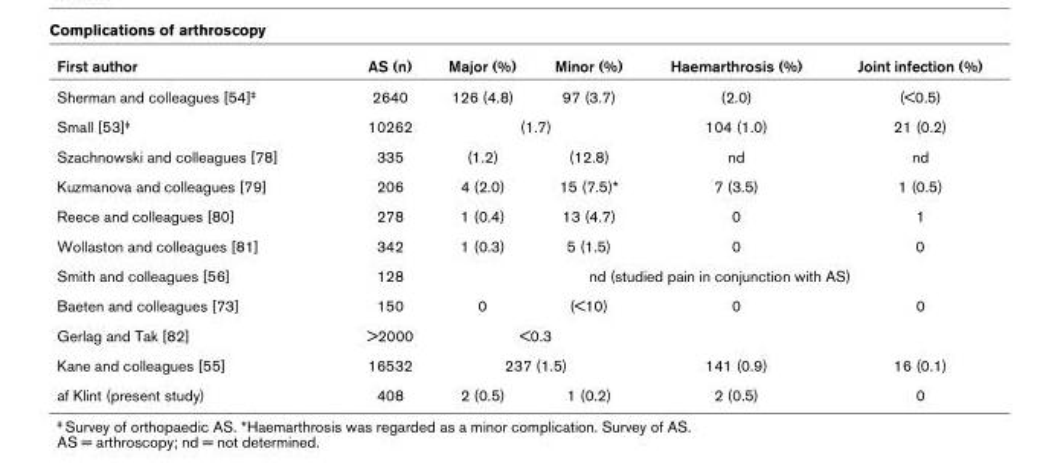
<table><thead><tr><td>First author</td><td>AS (n)</td><td>Major (%)</td><td>Minor (%)</td><td>Haemarthrosis (%)</td><td>Joint infection (%)</td></tr></thead><tbody><tr><td>Sherman and colleagues [54]<sup>‡</sup></td><td>2640</td><td>126 (4.8)</td><td>97 (3.7)</td><td>(2.0)</td><td>(&lt;0.5)</td></tr><tr><td>Small [53]<sup>‡</sup></td><td>10262</td><td colspan="2">(1.7)</td><td>104 (1.0)</td><td>21 (0.2)</td></tr><tr><td>Szachnowski and colleagues [78]</td><td>335</td><td>(1.2)</td><td>(12.8)</td><td>nd</td><td>nd</td></tr><tr><td>Kuzmanova and colleagues [79]</td><td>206</td><td>4 (2.0)</td><td>15 (7.5)*</td><td>7 (3.5)</td><td>1 (0.5)</td></tr><tr><td>Reece and colleagues [80]</td><td>278</td><td>1 (0.4)</td><td>13 (4.7)</td><td>0</td><td>1</td></tr><tr><td>Wollaston and colleagues [81]</td><td>342</td><td>1 (0.3)</td><td>5 (1.5)</td><td>0</td><td>0</td></tr><tr><td>Smith and colleagues [56]</td><td>128</td><td colspan="4">nd (studied pain in conjunction with AS)</td></tr><tr><td>Baeten and colleagues [73]</td><td>150</td><td>0</td><td>(&lt;10)</td><td>0</td><td>0</td></tr><tr><td>Gerlag and Tak [82]</td><td>&gt;2000</td><td colspan="2">&lt;0.3</td><td></td><td></td></tr><tr><td>Kane and colleagues [55]</td><td>16532</td><td colspan="2">237 (1.5)</td><td>141 (0.9)</td><td>16 (0.1)</td></tr><tr><td>af Klint (present study)</td><td>408</td><td>2 (0.5)</td><td>1 (0.2)</td><td>2 (0.5)</td><td>0</td></tr></tbody></table>